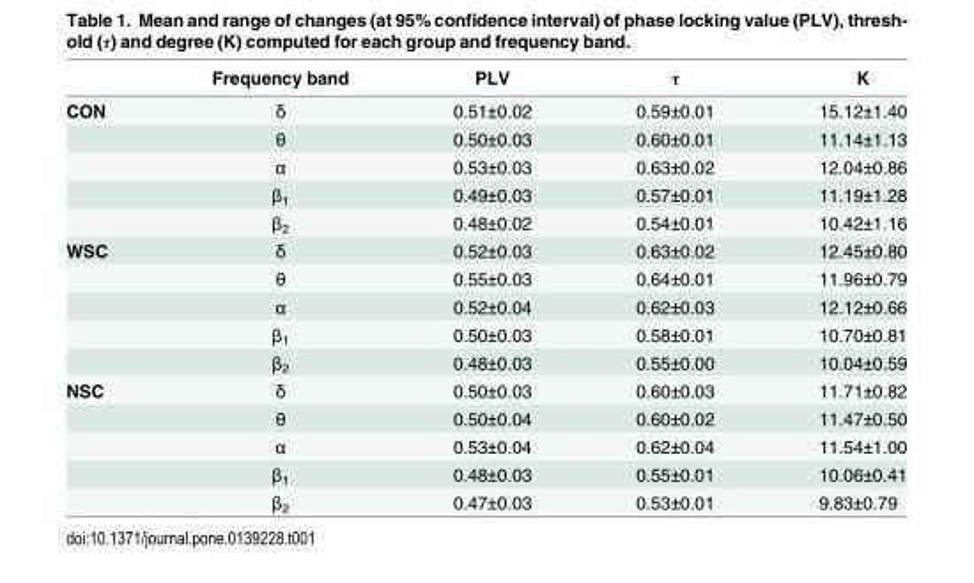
<table><thead><tr><td></td><td>Frequency band</td><td>PLV</td><td>τ</td><td>K</td></tr></thead><tbody><tr><td rowspan="5">CON</td><td>δ</td><td>0.51±0.02</td><td>0.59±0.01</td><td>15.12±1.40</td></tr><tr><td>θ</td><td>0.50±0.03</td><td>0.60±0.01</td><td>11.14±1.13</td></tr><tr><td>α</td><td>0.53±0.03</td><td>0.63±0.02</td><td>12.04±0.86</td></tr><tr><td>β<sub>1</sub></td><td>0.49±0.03</td><td>0.57±0.01</td><td>11.19±1.28</td></tr><tr><td>β<sub>2</sub></td><td>0.48±0.02</td><td>0.54±0.01</td><td>10.42±1.16</td></tr><tr><td rowspan="5">WSC</td><td>δ</td><td>0.52±0.03</td><td>0.63±0.02</td><td>12.45±0.80</td></tr><tr><td>θ</td><td>0.55±0.03</td><td>0.64±0.01</td><td>11.96±0.79</td></tr><tr><td>α</td><td>0.52±0.04</td><td>0.62±0.03</td><td>12.12±0.66</td></tr><tr><td>β<sub>1</sub></td><td>0.50±0.03</td><td>0.58±0.01</td><td>10.70±0.81</td></tr><tr><td>β<sub>2</sub></td><td>0.48±0.03</td><td>0.55±0.00</td><td>10.04±0.59</td></tr><tr><td rowspan="5">NSC</td><td>δ</td><td>0.50±0.03</td><td>0.60±0.03</td><td>11.71±0.82</td></tr><tr><td>θ</td><td>0.50±0.04</td><td>0.60±0.02</td><td>11.47±0.50</td></tr><tr><td>α</td><td>0.53±0.04</td><td>0.62±0.04</td><td>11.54±1.00</td></tr><tr><td>β<sub>1</sub></td><td>0.48±0.03</td><td>0.55±0.01</td><td>10.06±0.41</td></tr><tr><td>β<sub>2</sub></td><td>0.47±0.03</td><td>0.53±0.01</td><td>9.83±0.79</td></tr></tbody></table>